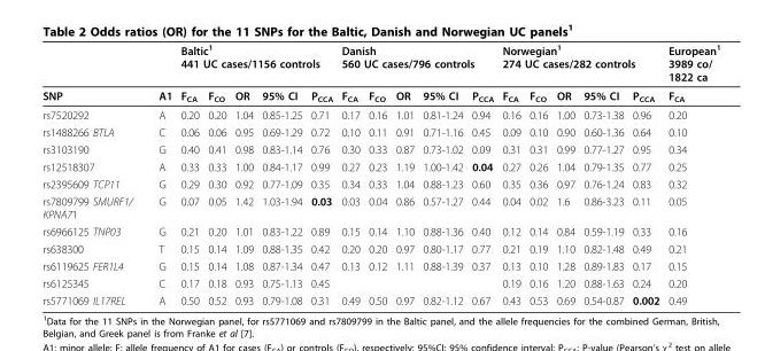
<table><thead><tr><td rowspan="2">SNP</td><td rowspan="2">A1</td><td colspan="5">Baltic<sup>1</sup> 441 UC cases/1156 controls</td><td colspan="5">Danish 560 UC cases/796 controls</td><td colspan="5">Norwegian<sup>1</sup> 274 UC cases/282 controls</td><td rowspan="2">European1 3989 co/ 1822 ca FCA</td></tr><tr><td>FCA</td><td>F<sub>CO</sub></td><td>OR</td><td>95% CI</td><td>PCCA</td><td>FCA</td><td>FCO</td><td>OR</td><td>95% CI</td><td>PCCA</td><td>FCA</td><td>FCO</td><td>OR</td><td>95% CI</td><td>PCCA</td></tr></thead><tbody><tr><td>rs7520292</td><td>A</td><td>0.20</td><td>0.20</td><td>1.04</td><td>0.85-1.25</td><td>0.71</td><td>0.17</td><td>0.16</td><td>1.01</td><td>0.81-1.24</td><td>0.94</td><td>0.16</td><td>0.16</td><td>1.00</td><td>0.73-1.38</td><td>0.96</td><td>0.20</td></tr><tr><td>rs1488266 BTLA</td><td>C</td><td>0.06</td><td>0.06</td><td>0.95</td><td>0.69-1.29</td><td>0.72</td><td>0.10</td><td>0.11</td><td>0.91</td><td>0.71-1.16</td><td>0.45</td><td>0.09</td><td>0.10</td><td>0.90</td><td>0.60-1.36</td><td>0.64</td><td>0.10</td></tr><tr><td>rs3103190</td><td>G</td><td>0.40</td><td>0.41</td><td>0.98</td><td>0.83-1.14</td><td>0.76</td><td>0.30</td><td>0.33</td><td>0.87</td><td>0.73-1.02</td><td>0.09</td><td>0.31</td><td>0.31</td><td>0.99</td><td>0.77-1.27</td><td>0.95</td><td>0.34</td></tr><tr><td>rs12518307</td><td>A</td><td>0.33</td><td>0.33</td><td>1.00</td><td>0.84-1.17</td><td>0.99</td><td>0.27</td><td>0.23</td><td>1.19</td><td>1.00-1.42</td><td>0.04</td><td>0.27</td><td>0.26</td><td>1.04</td><td>0.79-1.35</td><td>0.77</td><td>0.25</td></tr><tr><td>rs2395609 TCP11</td><td>G</td><td>0.29</td><td>0.30</td><td>0.92</td><td>0.77-1.09</td><td>0.35</td><td>0.34</td><td>0.33</td><td>1.04</td><td>0.88-1.23</td><td>0.60</td><td>0.35</td><td>0.36</td><td>0.97</td><td>0.76-1.24</td><td>0.83</td><td>0.32</td></tr><tr><td>rs7809799 SMURF1/ KPNA71</td><td>G</td><td>0.07</td><td>0.05</td><td>1.42</td><td>1.03-1.94</td><td>0.03</td><td>0.03</td><td>0.04</td><td>0.86</td><td>0.57-1.27</td><td>0.44</td><td>0.04</td><td>0.02</td><td>1.6</td><td>0.86-3.23</td><td>0.11</td><td>0.05</td></tr><tr><td>rs6966125 TNP03</td><td>G</td><td>0.21</td><td>0.20</td><td>1.01</td><td>0.83-1.22</td><td>0.89</td><td>0.15</td><td>0.14</td><td>1.10</td><td>0.88-1.36</td><td>0.40</td><td>0.12</td><td>0.14</td><td>0.84</td><td>0.59-1.19</td><td>0.33</td><td>0.16</td></tr><tr><td>rs638300</td><td>T</td><td>0.15</td><td>0.14</td><td>1.09</td><td>0.88-1.35</td><td>0.42</td><td>0.20</td><td>0.20</td><td>0.97</td><td>0.80-1.17</td><td>0.77</td><td>0.21</td><td>0.19</td><td>1.10</td><td>0.82-1.48</td><td>0.49</td><td>0.21</td></tr><tr><td>rs6119625 FER1L4</td><td>G</td><td>0.15</td><td>0.14</td><td>1.08</td><td>0.87-1.34</td><td>0.47</td><td>0.13</td><td>0.12</td><td>1.11</td><td>0.88-1.39</td><td>0.37</td><td>0.13</td><td>0.10</td><td>1.28</td><td>0.89-1.83</td><td>0.17</td><td>0.15</td></tr><tr><td>rs6125345</td><td>C</td><td>0.17</td><td>0.18</td><td>0.93</td><td>0.75-1.13</td><td>0.45</td><td></td><td></td><td></td><td></td><td></td><td>0.19</td><td>0.16</td><td>1.20</td><td>0.88-1.63</td><td>0.24</td><td>0.20</td></tr><tr><td>rs5771069 IL17REL</td><td>A</td><td>0.50</td><td>0.52</td><td>0.93</td><td>0.79-1.08</td><td>0.31</td><td>0.49</td><td>0.50</td><td>0.97</td><td>0.82-1.12</td><td>0.67</td><td>0.43</td><td>0.53</td><td>0.69</td><td>0.54-0.87</td><td>0.002</td><td>0.49</td></tr></tbody></table>